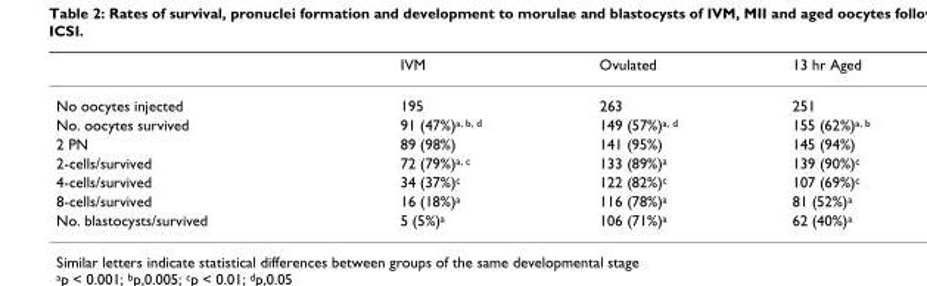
<table><thead><tr><td></td><td>IVM</td><td>Ovulated</td><td>13 hr Aged</td></tr></thead><tbody><tr><td>No oocytes injected</td><td>195</td><td>263</td><td>251</td></tr><tr><td>No. oocytes survived</td><td>91 (47%)<sup>a, b, d</sup></td><td>149 (57%)<sup>a, d</sup></td><td>155 (62%)<sup>a, b</sup></td></tr><tr><td>2 PN</td><td>89 (98%)</td><td>141 (95%)</td><td>145 (94%)</td></tr><tr><td>2-cells/survived</td><td>72 (79%)<sup>a, c</sup></td><td>133 (89%)<sup>a</sup></td><td>139 (90%)<sup>c</sup></td></tr><tr><td>4-cells/survived</td><td>34 (37%)<sup>c</sup></td><td>122 (82%)<sup>c</sup></td><td>107 (69%)<sup>c</sup></td></tr><tr><td>8-cells/survived</td><td>16 (18%)<sup>a</sup></td><td>116 (78%)<sup>a</sup></td><td>81 (52%)<sup>a</sup></td></tr><tr><td>No. blastocysts/survived</td><td>5 (5%)<sup>a</sup></td><td>106 (71%)<sup>a</sup></td><td>62 (40%)<sup>a</sup></td></tr></tbody></table>